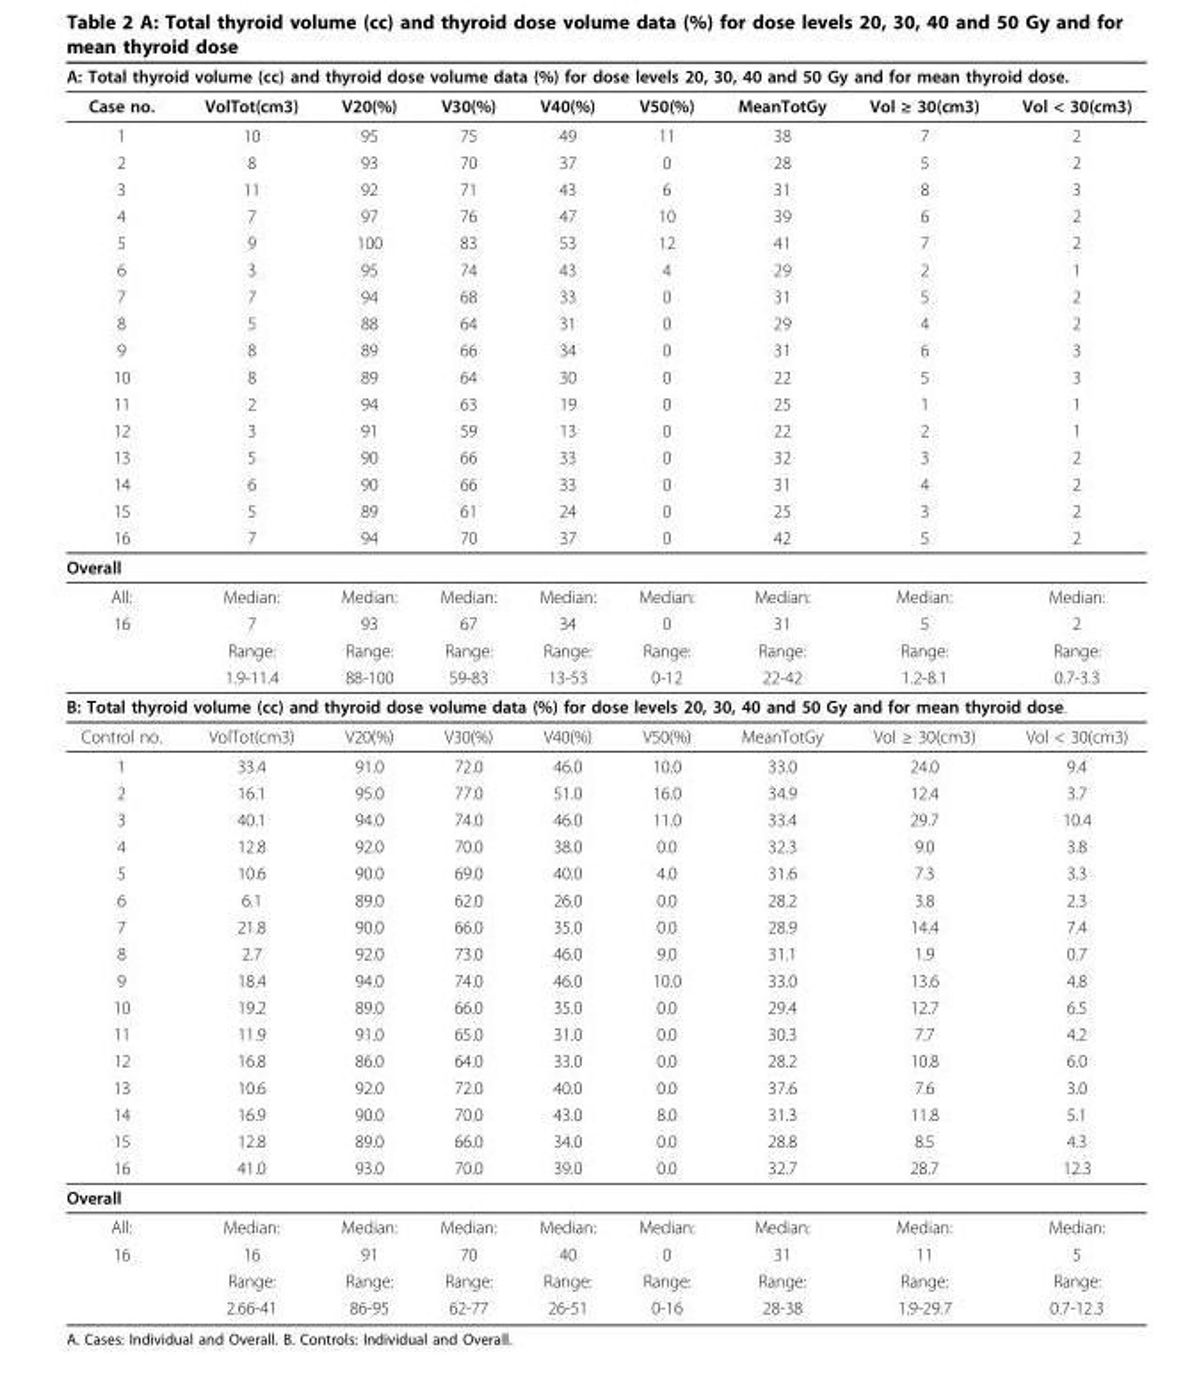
<table><thead><tr><td colspan="9">A: Total thyroid volume (cc) and thyroid dose volume data (%) for dose levels 20, 30, 40 and 50 Gy and for mean thyroid dose.</td></tr><tr><td>Case no.</td><td>VolTot(cm3)</td><td>V20(%)</td><td>V30(%)</td><td>V40(%)</td><td>V50(%)</td><td>MeanTotGy</td><td>Vol ≥ 30(cm3)</td><td>Vol &lt; 30(cm3)</td></tr></thead><tbody><tr><td>1</td><td>10</td><td>95</td><td>75</td><td>49</td><td>11</td><td>38</td><td>7</td><td>2</td></tr><tr><td>2</td><td>8</td><td>93</td><td>70</td><td>37</td><td>0</td><td>28</td><td>5</td><td>2</td></tr><tr><td>3</td><td>11</td><td>92</td><td>71</td><td>43</td><td>6</td><td>31</td><td>8</td><td>3</td></tr><tr><td>4</td><td>7</td><td>97</td><td>76</td><td>47</td><td>10</td><td>39</td><td>6</td><td>2</td></tr><tr><td>5</td><td>9</td><td>100</td><td>83</td><td>53</td><td>12</td><td>41</td><td>7</td><td>2</td></tr><tr><td>6</td><td>3</td><td>95</td><td>74</td><td>43</td><td>4</td><td>29</td><td>2</td><td>1</td></tr><tr><td>7</td><td>7</td><td>94</td><td>68</td><td>33</td><td>0</td><td>31</td><td>5</td><td>2</td></tr><tr><td>8</td><td>5</td><td>88</td><td>64</td><td>31</td><td>0</td><td>29</td><td>4</td><td>2</td></tr><tr><td>9</td><td>8</td><td>89</td><td>66</td><td>34</td><td>0</td><td>31</td><td>6</td><td>3</td></tr><tr><td>10</td><td>8</td><td>89</td><td>64</td><td>30</td><td>0</td><td>22</td><td>5</td><td>3</td></tr><tr><td>11</td><td>2</td><td>94</td><td>63</td><td>19</td><td>0</td><td>25</td><td>1</td><td>1</td></tr><tr><td>12</td><td>3</td><td>91</td><td>59</td><td>13</td><td>0</td><td>22</td><td>2</td><td>1</td></tr><tr><td>13</td><td>5</td><td>90</td><td>66</td><td>33</td><td>0</td><td>32</td><td>3</td><td>2</td></tr><tr><td>14</td><td>6</td><td>90</td><td>66</td><td>33</td><td>0</td><td>31</td><td>4</td><td>2</td></tr><tr><td>15</td><td>5</td><td>89</td><td>61</td><td>24</td><td>0</td><td>25</td><td>3</td><td>2</td></tr><tr><td>16</td><td>7</td><td>94</td><td>70</td><td>37</td><td>0</td><td>42</td><td>5</td><td>2</td></tr><tr><td colspan="9">Overall</td></tr><tr><td>All:</td><td>Median:</td><td>Median:</td><td>Median:</td><td>Median:</td><td>Median:</td><td>Median:</td><td>Median:</td><td>Median:</td></tr><tr><td rowspan="3">16</td><td>7</td><td>93</td><td>67</td><td>34</td><td>0</td><td>31</td><td>5</td><td>2</td></tr><tr><td>Range:</td><td>Range:</td><td>Range:</td><td>Range:</td><td>Range:</td><td>Range:</td><td>Range:</td><td>Range:</td></tr><tr><td>1.9-11.4</td><td>88-100</td><td>59-83</td><td>13-53</td><td>0-12</td><td>22-42</td><td>1.2-8.1</td><td>0.7-3.3</td></tr><tr><td colspan="9">B: Total thyroid volume (cc) and thyroid dose volume data (%) for dose levels 20, 30, 40 and 50 Gy and for mean thyroid dose.</td></tr><tr><td>Control no.</td><td>VolTot(cm3)</td><td>V20(%)</td><td>V30(%)</td><td>V40(%)</td><td>V50(%)</td><td>MeanTotGy</td><td>Vol ≥ 30(cm3)</td><td>Vol &lt; 30(cm3)</td></tr><tr><td>1</td><td>33.4</td><td>91.0</td><td>72.0</td><td>46.0</td><td>10.0</td><td>33.0</td><td>24.0</td><td>9.4</td></tr><tr><td>2</td><td>16.1</td><td>95.0</td><td>77.0</td><td>51.0</td><td>16.0</td><td>34.9</td><td>12.4</td><td>3.7</td></tr><tr><td>3</td><td>40.1</td><td>94.0</td><td>74.0</td><td>46.0</td><td>11.0</td><td>33.4</td><td>29.7</td><td>10.4</td></tr><tr><td>4</td><td>12.8</td><td>92.0</td><td>70.0</td><td>38.0</td><td>0.0</td><td>32.3</td><td>9.0</td><td>3.8</td></tr><tr><td>5</td><td>10.6</td><td>90.0</td><td>69.0</td><td>40.0</td><td>4.0</td><td>31.6</td><td>7.3</td><td>3.3</td></tr><tr><td>6</td><td>6.1</td><td>89.0</td><td>62.0</td><td>26.0</td><td>0.0</td><td>28.2</td><td>3.8</td><td>2.3</td></tr><tr><td>7</td><td>21.8</td><td>90.0</td><td>66.0</td><td>35.0</td><td>0.0</td><td>28.9</td><td>14.4</td><td>7.4</td></tr><tr><td>8</td><td>2.7</td><td>92.0</td><td>73.0</td><td>46.0</td><td>9.0</td><td>31.1</td><td>1.9</td><td>0.7</td></tr><tr><td>9</td><td>18.4</td><td>94.0</td><td>74.0</td><td>46.0</td><td>10.0</td><td>33.0</td><td>13.6</td><td>4.8</td></tr><tr><td>10</td><td>19.2</td><td>89.0</td><td>66.0</td><td>35.0</td><td>0.0</td><td>29.4</td><td>12.7</td><td>6.5</td></tr><tr><td>11</td><td>11.9</td><td>91.0</td><td>65.0</td><td>31.0</td><td>0.0</td><td>30.3</td><td>7.7</td><td>4.2</td></tr><tr><td>12</td><td>16.8</td><td>86.0</td><td>64.0</td><td>33.0</td><td>0.0</td><td>28.2</td><td>10.8</td><td>6.0</td></tr><tr><td>13</td><td>10.6</td><td>92.0</td><td>72.0</td><td>40.0</td><td>0.0</td><td>37.6</td><td>7.6</td><td>3.0</td></tr><tr><td>14</td><td>16.9</td><td>90.0</td><td>70.0</td><td>43.0</td><td>8.0</td><td>31.3</td><td>11.8</td><td>5.1</td></tr><tr><td>15</td><td>12.8</td><td>89.0</td><td>66.0</td><td>34.0</td><td>0.0</td><td>28.8</td><td>8.5</td><td>4.3</td></tr><tr><td>16</td><td>41.0</td><td>93.0</td><td>70.0</td><td>39.0</td><td>0.0</td><td>32.7</td><td>28.7</td><td>12.3</td></tr><tr><td colspan="9">Overall</td></tr><tr><td>All:</td><td>Median:</td><td>Median:</td><td>Median:</td><td>Median:</td><td>Median:</td><td>Median:</td><td>Median:</td><td>Median:</td></tr><tr><td rowspan="3">16</td><td>16</td><td>91</td><td>70</td><td>40</td><td>0</td><td>31</td><td>11</td><td>5</td></tr><tr><td>Range:</td><td>Range:</td><td>Range:</td><td>Range:</td><td>Range:</td><td>Range:</td><td>Range:</td><td>Range:</td></tr><tr><td>2.66-41</td><td>86-95</td><td>62-77</td><td>26-51</td><td>0-16</td><td>28-38</td><td>1.9-29.7</td><td>0.7-12.3</td></tr></tbody></table>